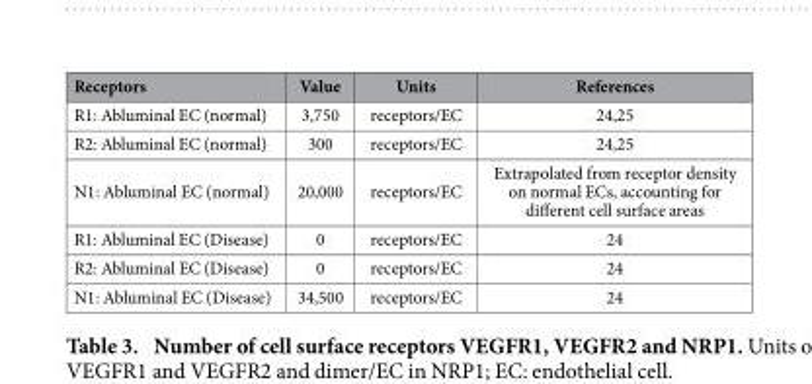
<table><thead><tr><td>Receptors</td><td>Value</td><td>Units</td><td>References</td></tr></thead><tbody><tr><td>R1: Abluminal EC (normal)</td><td>3,750</td><td>receptors/EC</td><td>24,25</td></tr><tr><td>R2: Abluminal EC (normal)</td><td>300</td><td>receptors/EC</td><td>24,25</td></tr><tr><td>N1: Abluminal EC (normal)</td><td>20,000</td><td>receptors/EC</td><td>Extrapolated from receptor density on normal ECs, accounting for different cell surface areas</td></tr><tr><td>R1: Abluminal EC (Disease)</td><td>0</td><td>receptors/EC</td><td>24</td></tr><tr><td>R2: Abluminal EC (Disease)</td><td>0</td><td>receptors/EC</td><td>24</td></tr><tr><td>N1: Abluminal EC (Disease)</td><td>34,500</td><td>receptors/EC</td><td>24</td></tr></tbody></table>